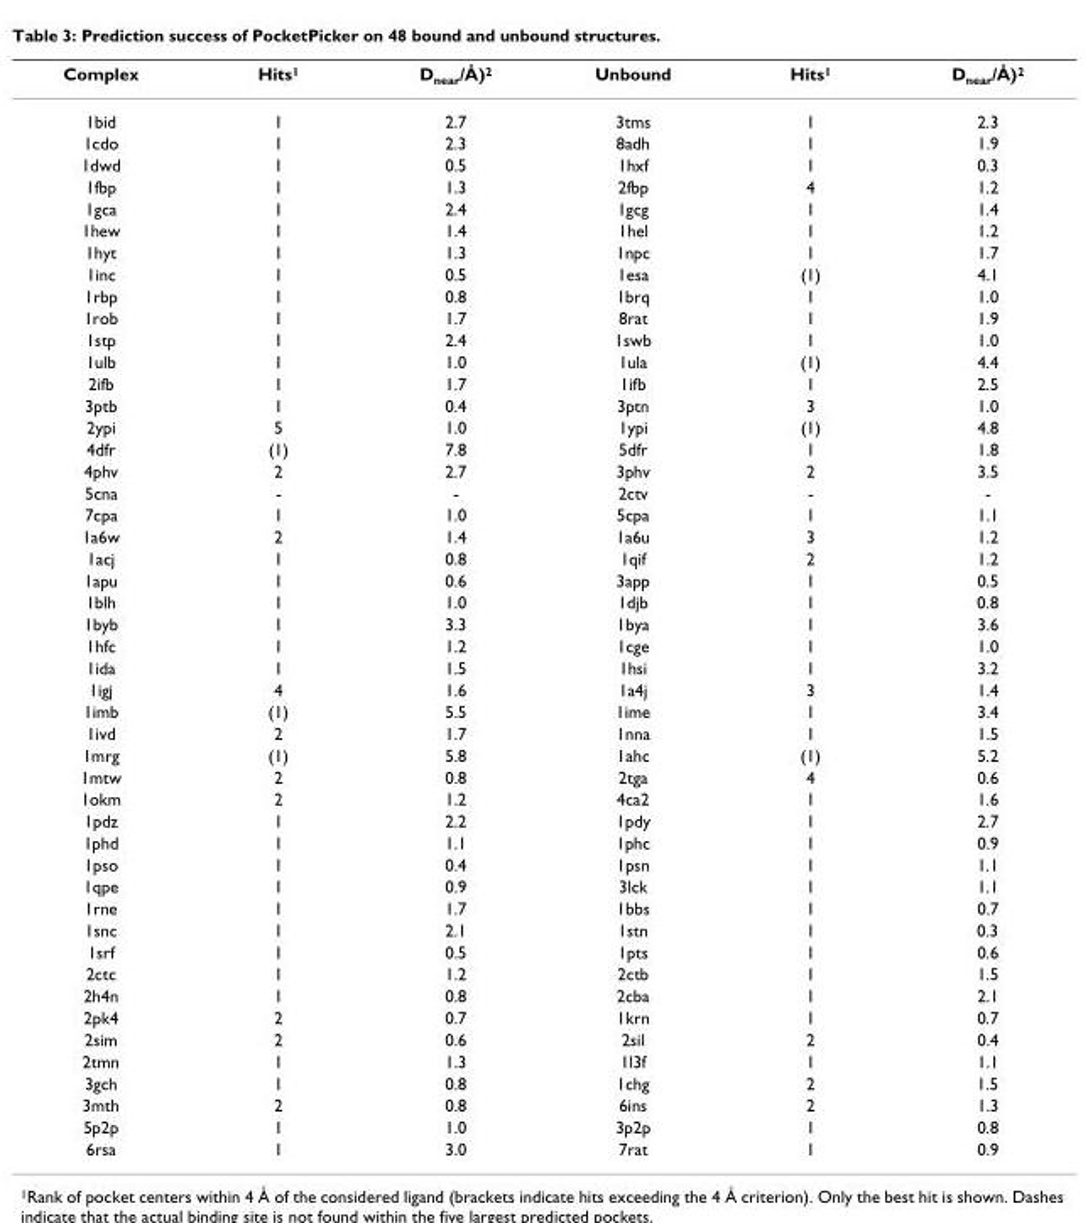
<table><thead><tr><td>Complex</td><td>Hits<sup>1</sup></td><td>D<sub>near</sub>/Å)<sup>2</sup></td><td>Unbound</td><td>Hits<sup>1</sup></td><td>D<sub>near</sub>/Å)<sup>2</sup></td></tr></thead><tbody><tr><td>1bid</td><td>1</td><td>2.7</td><td>3tms</td><td>1</td><td>2.3</td></tr><tr><td>1cdo</td><td>1</td><td>2.3</td><td>8adh</td><td>1</td><td>1.9</td></tr><tr><td>1dwd</td><td>1</td><td>0.5</td><td>1hxf</td><td>1</td><td>0.3</td></tr><tr><td>1fbp</td><td>1</td><td>1.3</td><td>2fbp</td><td>4</td><td>1.2</td></tr><tr><td>1gca</td><td>1</td><td>2.4</td><td>1gcg</td><td>1</td><td>1.4</td></tr><tr><td>1hew</td><td>1</td><td>1.4</td><td>1hel</td><td>1</td><td>1.2</td></tr><tr><td>1hyt</td><td>1</td><td>1.3</td><td>1npc</td><td>1</td><td>1.7</td></tr><tr><td>1inc</td><td>1</td><td>0.5</td><td>1esa</td><td>(1)</td><td>4.1</td></tr><tr><td>1rbp</td><td>1</td><td>0.8</td><td>1brq</td><td>1</td><td>1.0</td></tr><tr><td>1rob</td><td>1</td><td>1.7</td><td>8rat</td><td>1</td><td>1.9</td></tr><tr><td>1stp</td><td>1</td><td>2.4</td><td>1swb</td><td>1</td><td>1.0</td></tr><tr><td>1ulb</td><td>1</td><td>1.0</td><td>1ula</td><td>(1)</td><td>4.4</td></tr><tr><td>2ifb</td><td>1</td><td>1.7</td><td>1ifb</td><td>1</td><td>2.5</td></tr><tr><td>3ptb</td><td>1</td><td>0.4</td><td>3ptn</td><td>3</td><td>1.0</td></tr><tr><td>2ypi</td><td>5</td><td>1.0</td><td>1ypi</td><td>(1)</td><td>4.8</td></tr><tr><td>4dfr</td><td>(1)</td><td>7.8</td><td>5dfr</td><td>1</td><td>1.8</td></tr><tr><td>4phv</td><td>2</td><td>2.7</td><td>3phv</td><td>2</td><td>3.5</td></tr><tr><td>5cna</td><td>-</td><td>-</td><td>2ctv</td><td>-</td><td>-</td></tr><tr><td>7cpa</td><td>1</td><td>1.0</td><td>5cpa</td><td>1</td><td>1.1</td></tr><tr><td>1a6w</td><td>2</td><td>1.4</td><td>1a6u</td><td>3</td><td>1.2</td></tr><tr><td>1acj</td><td>1</td><td>0.8</td><td>1qif</td><td>2</td><td>1.2</td></tr><tr><td>1apu</td><td>1</td><td>0.6</td><td>3app</td><td>1</td><td>0.5</td></tr><tr><td>1blh</td><td>1</td><td>1.0</td><td>1djb</td><td>1</td><td>0.8</td></tr><tr><td>1byb</td><td>1</td><td>3.3</td><td>1bya</td><td>1</td><td>3.6</td></tr><tr><td>1hfc</td><td>1</td><td>1.2</td><td>1cge</td><td>1</td><td>1.0</td></tr><tr><td>1ida</td><td>1</td><td>1.5</td><td>1hsi</td><td>1</td><td>3.2</td></tr><tr><td>1igj</td><td>4</td><td>1.6</td><td>1a4j</td><td>3</td><td>1.4</td></tr><tr><td>1imb</td><td>(1)</td><td>5.5</td><td>1ime</td><td>1</td><td>3.4</td></tr><tr><td>1ivd</td><td>2</td><td>1.7</td><td>1nna</td><td>1</td><td>1.5</td></tr><tr><td>1mrg</td><td>(1)</td><td>5.8</td><td>1ahc</td><td>(1)</td><td>5.2</td></tr><tr><td>1mtw</td><td>2</td><td>0.8</td><td>2tga</td><td>4</td><td>0.6</td></tr><tr><td>1okm</td><td>2</td><td>1.2</td><td>4ca2</td><td>1</td><td>1.6</td></tr><tr><td>1pdz</td><td>1</td><td>2.2</td><td>1pdy</td><td>1</td><td>2.7</td></tr><tr><td>1phd</td><td>1</td><td>1.1</td><td>1phc</td><td>1</td><td>0.9</td></tr><tr><td>1pso</td><td>1</td><td>0.4</td><td>1psn</td><td>1</td><td>1.1</td></tr><tr><td>1qpe</td><td>1</td><td>0.9</td><td>3lck</td><td>1</td><td>1.1</td></tr><tr><td>1rne</td><td>1</td><td>1.7</td><td>1bbs</td><td>1</td><td>0.7</td></tr><tr><td>1snc</td><td>1</td><td>2.1</td><td>1stn</td><td>1</td><td>0.3</td></tr><tr><td>1srf</td><td>1</td><td>0.5</td><td>1pts</td><td>1</td><td>0.6</td></tr><tr><td>2ctc</td><td>1</td><td>1.2</td><td>2ctb</td><td>1</td><td>1.5</td></tr><tr><td>2h4n</td><td>1</td><td>0.8</td><td>2cba</td><td>1</td><td>2.1</td></tr><tr><td>2pk4</td><td>2</td><td>0.7</td><td>1krn</td><td>1</td><td>0.7</td></tr><tr><td>2sim</td><td>2</td><td>0.6</td><td>2sil</td><td>2</td><td>0.4</td></tr><tr><td>2tmn</td><td>1</td><td>1.3</td><td>1l3f</td><td>1</td><td>1.1</td></tr><tr><td>3gch</td><td>1</td><td>0.8</td><td>1chg</td><td>2</td><td>1.5</td></tr><tr><td>3mth</td><td>2</td><td>0.8</td><td>6ins</td><td>2</td><td>1.3</td></tr><tr><td>5p2p</td><td>1</td><td>1.0</td><td>3p2p</td><td>1</td><td>0.8</td></tr><tr><td>6rsa</td><td>1</td><td>3.0</td><td>7rat</td><td>1</td><td>0.9</td></tr></tbody></table>